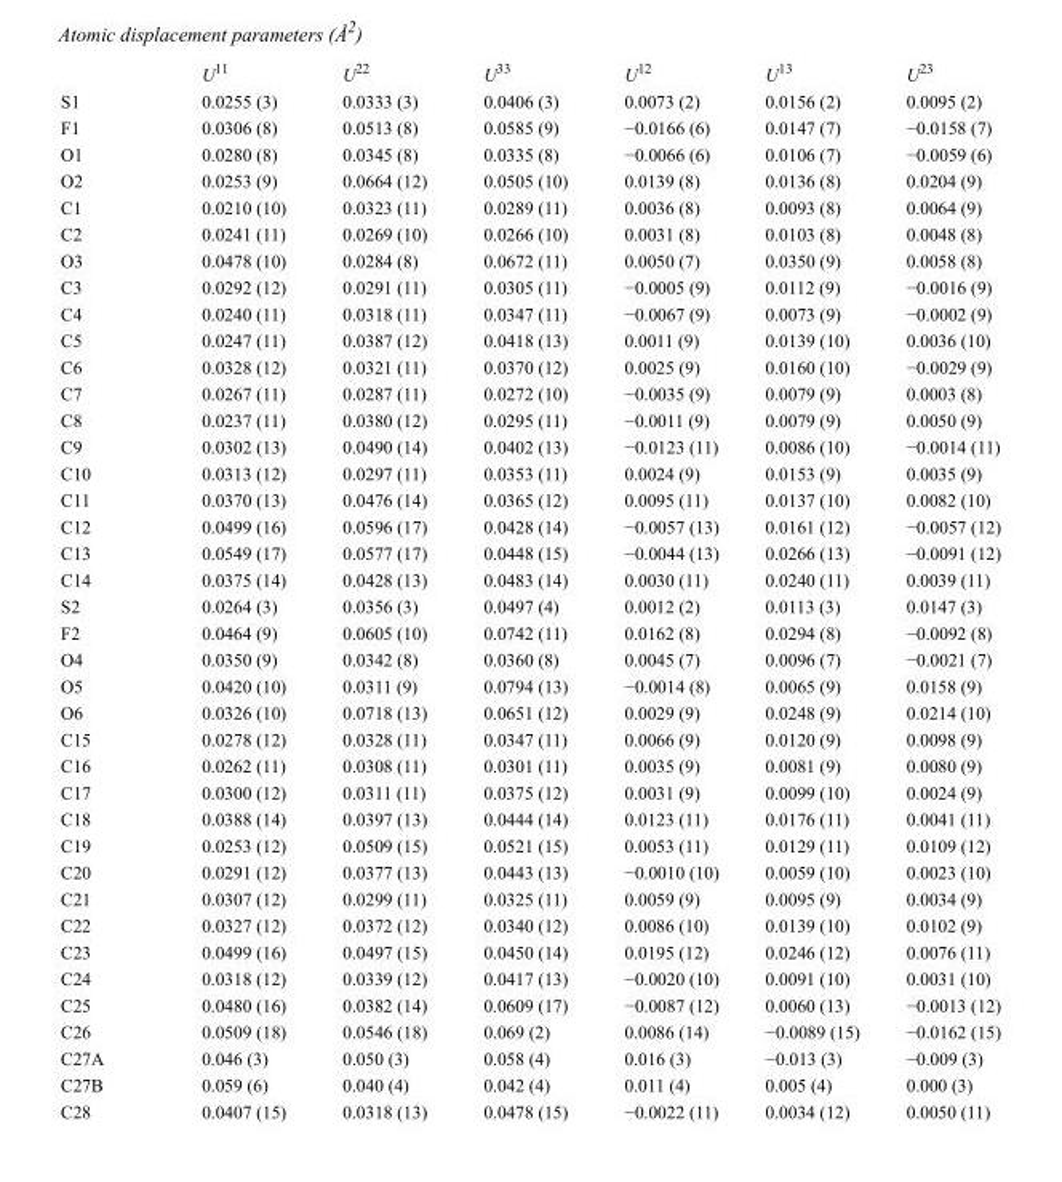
<table><thead><tr><td></td><td>U<sup>11</sup></td><td>U<sup>22</sup></td><td>U<sup>33</sup></td><td>U<sup>12</sup></td><td>U<sup>13</sup></td><td>U<sup>23</sup></td></tr></thead><tbody><tr><td>S1</td><td>0.0255 (3)</td><td>0.0333 (3)</td><td>0.0406 (3)</td><td>0.0073 (2)</td><td>0.0156 (2)</td><td>0.0095 (2)</td></tr><tr><td>F1</td><td>0.0306 (8)</td><td>0.0513 (8)</td><td>0.0585 (9)</td><td>−0.0166 (6)</td><td>0.0147 (7)</td><td>−0.0158 (7)</td></tr><tr><td>O1</td><td>0.0280 (8)</td><td>0.0345 (8)</td><td>0.0335 (8)</td><td>−0.0066 (6)</td><td>0.0106 (7)</td><td>−0.0059 (6)</td></tr><tr><td>O2</td><td>0.0253 (9)</td><td>0.0664 (12)</td><td>0.0505 (10)</td><td>0.0139 (8)</td><td>0.0136 (8)</td><td>0.0204 (9)</td></tr><tr><td>C1</td><td>0.0210 (10)</td><td>0.0323 (11)</td><td>0.0289 (11)</td><td>0.0036 (8)</td><td>0.0093 (8)</td><td>0.0064 (9)</td></tr><tr><td>C2</td><td>0.0241 (11)</td><td>0.0269 (10)</td><td>0.0266 (10)</td><td>0.0031 (8)</td><td>0.0103 (8)</td><td>0.0048 (8)</td></tr><tr><td>O3</td><td>0.0478 (10)</td><td>0.0284 (8)</td><td>0.0672 (11)</td><td>0.0050 (7)</td><td>0.0350 (9)</td><td>0.0058 (8)</td></tr><tr><td>C3</td><td>0.0292 (12)</td><td>0.0291 (11)</td><td>0.0305 (11)</td><td>−0.0005 (9)</td><td>0.0112 (9)</td><td>−0.0016 (9)</td></tr><tr><td>C4</td><td>0.0240 (11)</td><td>0.0318 (11)</td><td>0.0347 (11)</td><td>−0.0067 (9)</td><td>0.0073 (9)</td><td>−0.0002 (9)</td></tr><tr><td>C5</td><td>0.0247 (11)</td><td>0.0387 (12)</td><td>0.0418 (13)</td><td>0.0011 (9)</td><td>0.0139 (10)</td><td>0.0036 (10)</td></tr><tr><td>C6</td><td>0.0328 (12)</td><td>0.0321 (11)</td><td>0.0370 (12)</td><td>0.0025 (9)</td><td>0.0160 (10)</td><td>−0.0029 (9)</td></tr><tr><td>C7</td><td>0.0267 (11)</td><td>0.0287 (11)</td><td>0.0272 (10)</td><td>−0.0035 (9)</td><td>0.0079 (9)</td><td>0.0003 (8)</td></tr><tr><td>C8</td><td>0.0237 (11)</td><td>0.0380 (12)</td><td>0.0295 (11)</td><td>−0.0011 (9)</td><td>0.0079 (9)</td><td>0.0050 (9)</td></tr><tr><td>C9</td><td>0.0302 (13)</td><td>0.0490 (14)</td><td>0.0402 (13)</td><td>−0.0123 (11)</td><td>0.0086 (10)</td><td>−0.0014 (11)</td></tr><tr><td>C10</td><td>0.0313 (12)</td><td>0.0297 (11)</td><td>0.0353 (11)</td><td>0.0024 (9)</td><td>0.0153 (9)</td><td>0.0035 (9)</td></tr><tr><td>C11</td><td>0.0370 (13)</td><td>0.0476 (14)</td><td>0.0365 (12)</td><td>0.0095 (11)</td><td>0.0137 (10)</td><td>0.0082 (10)</td></tr><tr><td>C12</td><td>0.0499 (16)</td><td>0.0596 (17)</td><td>0.0428 (14)</td><td>−0.0057 (13)</td><td>0.0161 (12)</td><td>−0.0057 (12)</td></tr><tr><td>C13</td><td>0.0549 (17)</td><td>0.0577 (17)</td><td>0.0448 (15)</td><td>−0.0044 (13)</td><td>0.0266 (13)</td><td>−0.0091 (12)</td></tr><tr><td>C14</td><td>0.0375 (14)</td><td>0.0428 (13)</td><td>0.0483 (14)</td><td>0.0030 (11)</td><td>0.0240 (11)</td><td>0.0039 (11)</td></tr><tr><td>S2</td><td>0.0264 (3)</td><td>0.0356 (3)</td><td>0.0497 (4)</td><td>0.0012 (2)</td><td>0.0113 (3)</td><td>0.0147 (3)</td></tr><tr><td>F2</td><td>0.0464 (9)</td><td>0.0605 (10)</td><td>0.0742 (11)</td><td>0.0162 (8)</td><td>0.0294 (8)</td><td>−0.0092 (8)</td></tr><tr><td>O4</td><td>0.0350 (9)</td><td>0.0342 (8)</td><td>0.0360 (8)</td><td>0.0045 (7)</td><td>0.0096 (7)</td><td>−0.0021 (7)</td></tr><tr><td>O5</td><td>0.0420 (10)</td><td>0.0311 (9)</td><td>0.0794 (13)</td><td>−0.0014 (8)</td><td>0.0065 (9)</td><td>0.0158 (9)</td></tr><tr><td>O6</td><td>0.0326 (10)</td><td>0.0718 (13)</td><td>0.0651 (12)</td><td>0.0029 (9)</td><td>0.0248 (9)</td><td>0.0214 (10)</td></tr><tr><td>C15</td><td>0.0278 (12)</td><td>0.0328 (11)</td><td>0.0347 (11)</td><td>0.0066 (9)</td><td>0.0120 (9)</td><td>0.0098 (9)</td></tr><tr><td>C16</td><td>0.0262 (11)</td><td>0.0308 (11)</td><td>0.0301 (11)</td><td>0.0035 (9)</td><td>0.0081 (9)</td><td>0.0080 (9)</td></tr><tr><td>C17</td><td>0.0300 (12)</td><td>0.0311 (11)</td><td>0.0375 (12)</td><td>0.0031 (9)</td><td>0.0099 (10)</td><td>0.0024 (9)</td></tr><tr><td>C18</td><td>0.0388 (14)</td><td>0.0397 (13)</td><td>0.0444 (14)</td><td>0.0123 (11)</td><td>0.0176 (11)</td><td>0.0041 (11)</td></tr><tr><td>C19</td><td>0.0253 (12)</td><td>0.0509 (15)</td><td>0.0521 (15)</td><td>0.0053 (11)</td><td>0.0129 (11)</td><td>0.0109 (12)</td></tr><tr><td>C20</td><td>0.0291 (12)</td><td>0.0377 (13)</td><td>0.0443 (13)</td><td>−0.0010 (10)</td><td>0.0059 (10)</td><td>0.0023 (10)</td></tr><tr><td>C21</td><td>0.0307 (12)</td><td>0.0299 (11)</td><td>0.0325 (11)</td><td>0.0059 (9)</td><td>0.0095 (9)</td><td>0.0034 (9)</td></tr><tr><td>C22</td><td>0.0327 (12)</td><td>0.0372 (12)</td><td>0.0340 (12)</td><td>0.0086 (10)</td><td>0.0139 (10)</td><td>0.0102 (9)</td></tr><tr><td>C23</td><td>0.0499 (16)</td><td>0.0497 (15)</td><td>0.0450 (14)</td><td>0.0195 (12)</td><td>0.0246 (12)</td><td>0.0076 (11)</td></tr><tr><td>C24</td><td>0.0318 (12)</td><td>0.0339 (12)</td><td>0.0417 (13)</td><td>−0.0020 (10)</td><td>0.0091 (10)</td><td>0.0031 (10)</td></tr><tr><td>C25</td><td>0.0480 (16)</td><td>0.0382 (14)</td><td>0.0609 (17)</td><td>−0.0087 (12)</td><td>0.0060 (13)</td><td>−0.0013 (12)</td></tr><tr><td>C26</td><td>0.0509 (18)</td><td>0.0546 (18)</td><td>0.069 (2)</td><td>0.0086 (14)</td><td>−0.0089 (15)</td><td>−0.0162 (15)</td></tr><tr><td>C27A</td><td>0.046 (3)</td><td>0.050 (3)</td><td>0.058 (4)</td><td>0.016 (3)</td><td>−0.013 (3)</td><td>−0.009 (3)</td></tr><tr><td>C27B</td><td>0.059 (6)</td><td>0.040 (4)</td><td>0.042 (4)</td><td>0.011 (4)</td><td>0.005 (4)</td><td>0.000 (3)</td></tr><tr><td>C28</td><td>0.0407 (15)</td><td>0.0318 (13)</td><td>0.0478 (15)</td><td>−0.0022 (11)</td><td>0.0034 (12)</td><td>0.0050 (11)</td></tr></tbody></table>